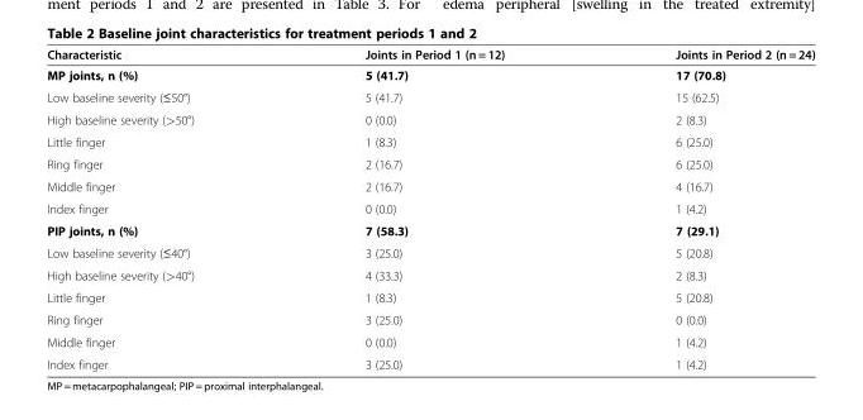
<table><thead><tr><td>Characteristic</td><td>Joints in Period 1 (n = 12)</td><td>Joints in Period 2 (n = 24)</td></tr></thead><tbody><tr><td>MP joints, n (%)</td><td>5 (41.7)</td><td>17 (70.8)</td></tr><tr><td>Low baseline severity (≤50°)</td><td>5 (41.7)</td><td>15 (62.5)</td></tr><tr><td>High baseline severity (&gt;50°)</td><td>0 (0.0)</td><td>2 (8.3)</td></tr><tr><td>Little finger</td><td>1 (8.3)</td><td>6 (25.0)</td></tr><tr><td>Ring finger</td><td>2 (16.7)</td><td>6 (25.0)</td></tr><tr><td>Middle finger</td><td>2 (16.7)</td><td>4 (16.7)</td></tr><tr><td>Index finger</td><td>0 (0.0)</td><td>1 (4.2)</td></tr><tr><td>PIP joints, n (%)</td><td>7 (58.3)</td><td>7 (29.1)</td></tr><tr><td>Low baseline severity (≤40°)</td><td>3 (25.0)</td><td>5 (20.8)</td></tr><tr><td>High baseline severity (&gt;40°)</td><td>4 (33.3)</td><td>2 (8.3)</td></tr><tr><td>Little finger</td><td>1 (8.3)</td><td>5 (20.8)</td></tr><tr><td>Ring finger</td><td>3 (25.0)</td><td>0 (0.0)</td></tr><tr><td>Middle finger</td><td>0 (0.0)</td><td>1 (4.2)</td></tr><tr><td>Index finger</td><td>3 (25.0)</td><td>1 (4.2)</td></tr></tbody></table>